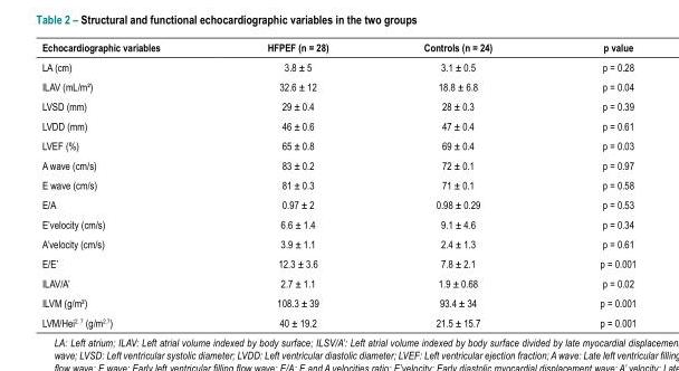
<table><thead><tr><td>Echocardiographic variables</td><td>HFPEF (n = 28)</td><td>Controls (n = 24)</td><td>p value</td></tr></thead><tbody><tr><td>LA (cm)</td><td>3.8 ± 5</td><td>3.1 ± 0.5</td><td>p = 0.28</td></tr><tr><td>ILAV (mL/m²)</td><td>32.6 ± 12</td><td>18.8 ± 6.8</td><td>p = 0.04</td></tr><tr><td>LVSD (mm)</td><td>29 ± 0.4</td><td>28 ± 0.3</td><td>p = 0.39</td></tr><tr><td>LVDD (mm)</td><td>46 ± 0.6</td><td>47 ± 0.4</td><td>p = 0.61</td></tr><tr><td>LVEF (%)</td><td>65 ± 0.8</td><td>69 ± 0.4</td><td>p = 0.03</td></tr><tr><td>A wave (cm/s)</td><td>83 ± 0.2</td><td>72 ± 0.1</td><td>p = 0.97</td></tr><tr><td>E wave (cm/s)</td><td>81 ± 0.3</td><td>71 ± 0.1</td><td>p = 0.58</td></tr><tr><td>E/A</td><td>0.97 ± 2</td><td>0.98 ± 0.29</td><td>p = 0.53</td></tr><tr><td>E’velocity (cm/s)</td><td>6.6 ± 1.4</td><td>9.1 ± 4.6</td><td>p = 0.34</td></tr><tr><td>A’velocity (cm/s)</td><td>3.9 ± 1.1</td><td>2.4 ± 1.3</td><td>p = 0.61</td></tr><tr><td>E/E’</td><td>12.3 ± 3.6</td><td>7.8 ± 2.1</td><td>p = 0.001</td></tr><tr><td>ILAV/A’</td><td>2.7 ± 1.1</td><td>1.9 ± 0.68</td><td>p = 0.02</td></tr><tr><td>ILVM (g/m²)</td><td>108.3 ± 39</td><td>93.4 ± 34</td><td>p = 0.001</td></tr><tr><td>LVM/Hei<sup>2. 7</sup> (g/m<sup>2.7</sup>)</td><td>40 ± 19.2</td><td>21.5 ± 15.7</td><td>p = 0.001</td></tr></tbody></table>